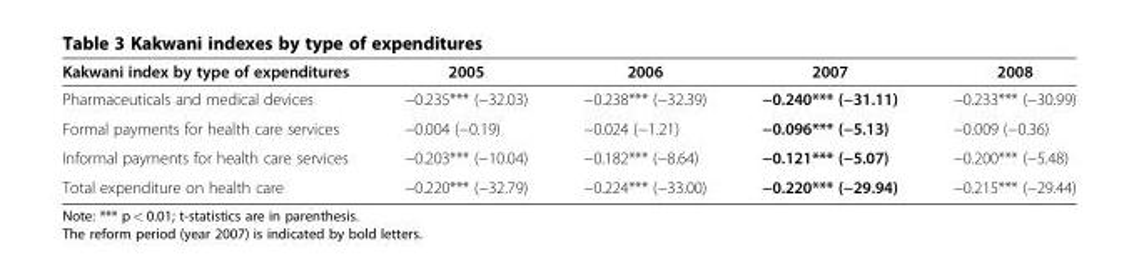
<table><thead><tr><td>Kakwani index by type of expenditures</td><td>2005</td><td>2006</td><td>2007</td><td>2008</td></tr></thead><tbody><tr><td>Pharmaceuticals and medical devices</td><td>−0.235*** (−32.03)</td><td>−0.238*** (−32.39)</td><td>−0.240*** (−31.11)</td><td>−0.233*** (−30.99)</td></tr><tr><td>Formal payments for health care services</td><td>−0.004 (−0.19)</td><td>−0.024 (−1.21)</td><td>−0.096*** (−5.13)</td><td>−0.009 (−0.36)</td></tr><tr><td>Informal payments for health care services</td><td>−0.203*** (−10.04)</td><td>−0.182*** (−8.64)</td><td>−0.121*** (−5.07)</td><td>−0.200*** (−5.48)</td></tr><tr><td>Total expenditure on health care</td><td>−0.220*** (−32.79)</td><td>−0.224*** (−33.00)</td><td>−0.220*** (−29.94)</td><td>−0.215*** (−29.44)</td></tr></tbody></table>